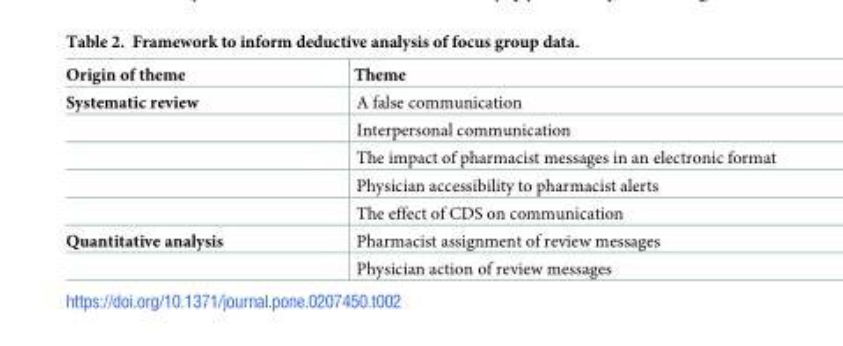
<table><thead><tr><td>Origin of theme</td><td>Theme</td></tr></thead><tbody><tr><td rowspan="5">Systematic review</td><td>A false communication</td></tr><tr><td>Interpersonal communication</td></tr><tr><td>The impact of pharmacist messages in an electronic format</td></tr><tr><td>Physician accessibility to pharmacist alerts</td></tr><tr><td>The effect of CDS on communication</td></tr><tr><td rowspan="2">Quantitative analysis</td><td>Pharmacist assignment of review messages</td></tr><tr><td>Physician action of review messages</td></tr></tbody></table>